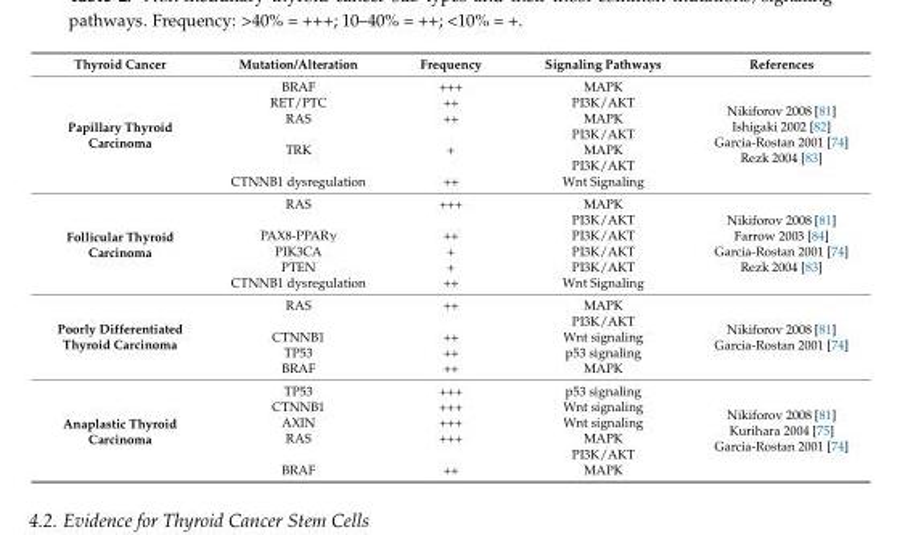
<table><thead><tr><td>Thyroid Cancer</td><td>Mutation/Alteration</td><td>Frequency</td><td>Signaling Pathways</td><td>References</td></tr></thead><tbody><tr><td rowspan="7">Papillary Thyroid Carcinoma</td><td>BRAF</td><td>+++</td><td>MAPK</td><td rowspan="7">Nikiforov 2008 [81] Ishigaki 2002 [82] Garcia-Rostan 2001 [74] Rezk 2004 [83]</td></tr><tr><td>RET/PTC</td><td>++</td><td>PI3K/AKT</td></tr><tr><td>RAS</td><td>++</td><td>MAPK</td></tr><tr><td></td><td></td><td>PI3K/AKT</td></tr><tr><td>TRK</td><td>+</td><td>MAPK</td></tr><tr><td></td><td></td><td>PI3K/AKT</td></tr><tr><td>CTNNB1 dysregulation</td><td>++</td><td>Wnt Signaling</td></tr><tr><td rowspan="6">Follicular Thyroid Carcinoma</td><td>RAS</td><td>+++</td><td>MAPK</td><td rowspan="6">Nikiforov 2008 [81] Farrow 2003 [84] Garcia-Rostan 2001 [74] Rezk 2004 [83]</td></tr><tr><td></td><td></td><td>PI3K/AKT</td></tr><tr><td>PAX8-PPARγ</td><td>++</td><td>PI3K/AKT</td></tr><tr><td>PIK3CA</td><td>+</td><td>PI3K/AKT</td></tr><tr><td>PTEN</td><td>+</td><td>PI3K/AKT</td></tr><tr><td>CTNNB1 dysregulation</td><td>++</td><td>Wnt Signaling</td></tr><tr><td rowspan="5">Poorly Differentiated Thyroid Carcinoma</td><td>RAS</td><td>++</td><td>MAPK</td><td rowspan="5">Nikiforov 2008 [81] Garcia-Rostan 2001 [74]</td></tr><tr><td></td><td></td><td>PI3K/AKT</td></tr><tr><td>CTNNB1</td><td>++</td><td>Wnt signaling</td></tr><tr><td>TP53</td><td>++</td><td>p53 signaling</td></tr><tr><td>BRAF</td><td>++</td><td>MAPK</td></tr><tr><td rowspan="6">Anaplastic Thyroid Carcinoma</td><td>TP53</td><td>+++</td><td>p53 signaling</td><td rowspan="6">Nikiforov 2008 [81] Kurihara 2004 [75] Garcia-Rostan 2001 [74]</td></tr><tr><td>CTNNB1</td><td>+++</td><td>Wnt signaling</td></tr><tr><td>AXIN</td><td>+++</td><td>Wnt signaling</td></tr><tr><td>RAS</td><td>+++</td><td>MAPK</td></tr><tr><td></td><td></td><td>PI3K/AKT</td></tr><tr><td>BRAF</td><td>++</td><td>MAPK</td></tr></tbody></table>